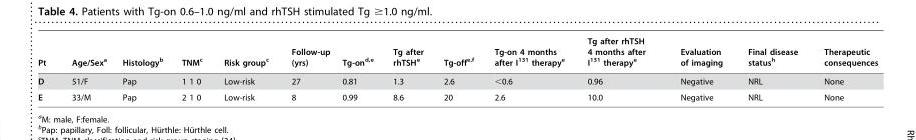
<table><thead><tr><td>Pt</td><td>Age/Sex<sup>a</sup></td><td>Histology<sup>b</sup></td><td>TNM<sup>c</sup></td><td>Risk group<sup>c</sup></td><td>Follow-up (yrs)</td><td>Tg-on<sup>d</sup>,<sup>e</sup></td><td>Tg after rhTSH<sup>e</sup></td><td>Tg-off<sup>e</sup>,<sup>f</sup></td><td>Tg-on 4 months after I<sup>131</sup> therapy<sup>e</sup></td><td>Tg after rhTSH 4 months after I<sup>131</sup> therapy<sup>e</sup></td><td>Evaluation of imaging</td><td>Final disease status<sup>h</sup></td><td>Therapeutic consequences</td></tr></thead><tbody><tr><td>D</td><td>51/F</td><td>Pap</td><td>1 1 0</td><td>Low-risk</td><td>27</td><td>0.81</td><td>1.3</td><td>2.6</td><td>&lt;0.6</td><td>0.96</td><td>Negative</td><td>NRL</td><td>None</td></tr><tr><td>E</td><td>33/M</td><td>Pap</td><td>2 1 0</td><td>Low-risk</td><td>8</td><td>0.99</td><td>8.6</td><td>20</td><td>2.6</td><td>10.0</td><td>Negative</td><td>NRL</td><td>None</td></tr></tbody></table>